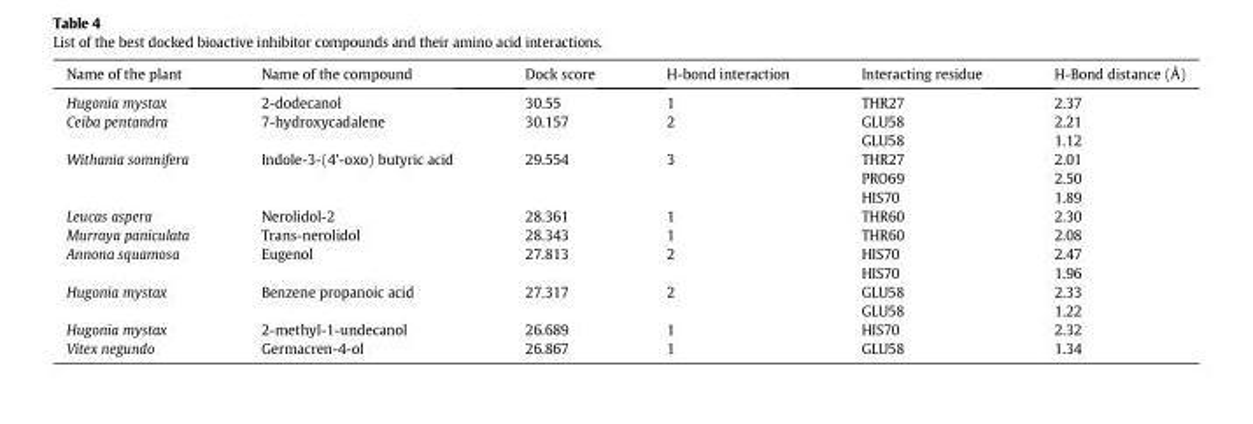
<table><thead><tr><td>Name of the plant</td><td>Name of the compound</td><td>Dock score</td><td>H-bond interaction</td><td>Interacting residue</td><td>H-Bond distance (Å)</td></tr></thead><tbody><tr><td>Hugonia mystax</td><td>2-dodecanol</td><td>30.55</td><td>1</td><td>THR27</td><td>2.37</td></tr><tr><td rowspan="2">Ceiba pentandra</td><td rowspan="2">7-hydroxycadalene</td><td rowspan="2">30.157</td><td rowspan="2">2</td><td>GLU58</td><td>2.21</td></tr><tr><td>GLU58</td><td>1.12</td></tr><tr><td rowspan="3">Withania somnifera</td><td rowspan="3">Indole-3-(4&#x27;-oxo) butyric acid</td><td rowspan="3">29.554</td><td rowspan="3">3</td><td>THR27</td><td>2.01</td></tr><tr><td>PRO69</td><td>2.50</td></tr><tr><td>HIS70</td><td>1.89</td></tr><tr><td>Leucas aspera</td><td>Nerolidol-2</td><td>28.361</td><td>1</td><td>THR60</td><td>2.30</td></tr><tr><td>Murraya paniculata</td><td>Trans-nerolidol</td><td>28.343</td><td>1</td><td>THR60</td><td>2.08</td></tr><tr><td rowspan="2">Annona squamosa</td><td rowspan="2">Eugenol</td><td rowspan="2">27.813</td><td rowspan="2">2</td><td>HIS70</td><td>2.47</td></tr><tr><td>HIS70</td><td>1.96</td></tr><tr><td rowspan="2">Hugonia mystax</td><td rowspan="2">Benzene propanoic acid</td><td rowspan="2">27.317</td><td rowspan="2">2</td><td>GLU58</td><td>2.33</td></tr><tr><td>GLU58</td><td>1.22</td></tr><tr><td>Hugonia mystax</td><td>2-methyl-1-undecanol</td><td>26.689</td><td>1</td><td>HIS70</td><td>2.32</td></tr><tr><td>Vitex negundo</td><td>Germacren-4-ol</td><td>26.867</td><td>1</td><td>GLU58</td><td>1.34</td></tr></tbody></table>